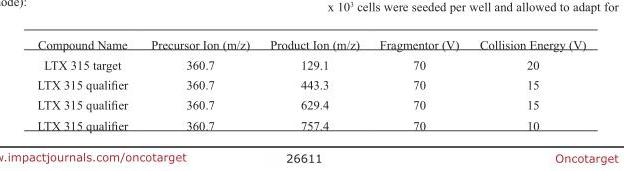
<table><thead><tr><td>Compound Name</td><td>Precursor Ion (m/z)</td><td>Product Ion (m/z)</td><td>Fragmentor (V)</td><td>Collision Energy (V)</td></tr></thead><tbody><tr><td>LTX 315 target</td><td>360.7</td><td>129.1</td><td>70</td><td>20</td></tr><tr><td>LTX 315 qualifier</td><td>360.7</td><td>443.3</td><td>70</td><td>15</td></tr><tr><td>LTX 315 qualifier</td><td>360.7</td><td>629.4</td><td>70</td><td>15</td></tr><tr><td>LTX 315 qualifier</td><td>360.7</td><td>757.4</td><td>70</td><td>10</td></tr></tbody></table>